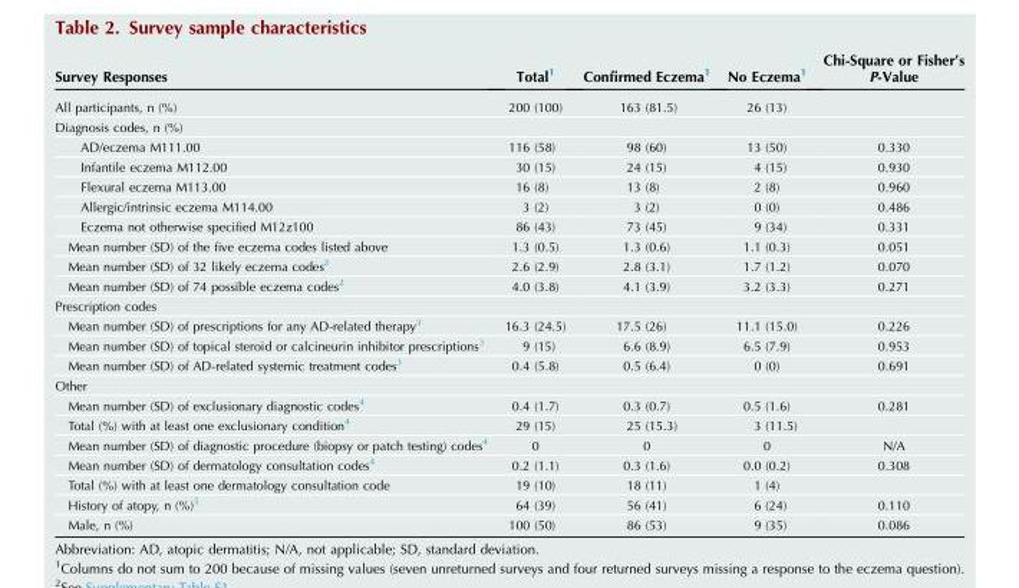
<table><thead><tr><td>Survey Responses</td><td>Total<sup>1</sup></td><td>Confirmed Eczema<sup>1</sup></td><td>No Eczema<sup>1</sup></td><td>Chi-Square or Fisher’s P-Value</td></tr></thead><tbody><tr><td>All participants, n (%)</td><td>200 (100)</td><td>163 (81.5)</td><td>26 (13)</td><td></td></tr><tr><td colspan="5">Diagnosis codes, n (%)</td></tr><tr><td>AD/eczema M111.00</td><td>116 (58)</td><td>98 (60)</td><td>13 (50)</td><td>0.330</td></tr><tr><td>Infantile eczema M112.00</td><td>30 (15)</td><td>24 (15)</td><td>4 (15)</td><td>0.930</td></tr><tr><td>Flexural eczema M113.00</td><td>16 (8)</td><td>13 (8)</td><td>2 (8)</td><td>0.960</td></tr><tr><td>Allergic/intrinsic eczema M114.00</td><td>3 (2)</td><td>3 (2)</td><td>0 (0)</td><td>0.486</td></tr><tr><td>Eczema not otherwise specified M12z100</td><td>86 (43)</td><td>73 (45)</td><td>9 (34)</td><td>0.331</td></tr><tr><td>Mean number (SD) of the five eczema codes listed above</td><td>1.3 (0.5)</td><td>1.3 (0.6)</td><td>1.1 (0.3)</td><td>0.051</td></tr><tr><td>Mean number (SD) of 32 likely eczema codes<sup>2</sup></td><td>2.6 (2.9)</td><td>2.8 (3.1)</td><td>1.7 (1.2)</td><td>0.070</td></tr><tr><td>Mean number (SD) of 74 possible eczema codes<sup>2</sup></td><td>4.0 (3.8)</td><td>4.1 (3.9)</td><td>3.2 (3.3)</td><td>0.271</td></tr><tr><td colspan="5">Prescription codes</td></tr><tr><td>Mean number (SD) of prescriptions for any AD-related therapy<sup>3</sup></td><td>16.3 (24.5)</td><td>17.5 (26)</td><td>11.1 (15.0)</td><td>0.226</td></tr><tr><td>Mean number (SD) of topical steroid or calcineurin inhibitor prescriptions<sup>3</sup></td><td>9 (15)</td><td>6.6 (8.9)</td><td>6.5 (7.9)</td><td>0.953</td></tr><tr><td>Mean number (SD) of AD-related systemic treatment codes<sup>3</sup></td><td>0.4 (5.8)</td><td>0.5 (6.4)</td><td>0 (0)</td><td>0.691</td></tr><tr><td colspan="5">Other</td></tr><tr><td>Mean number (SD) of exclusionary diagnostic codes<sup>4</sup></td><td>0.4 (1.7)</td><td>0.3 (0.7)</td><td>0.5 (1.6)</td><td>0.281</td></tr><tr><td>Total (%) with at least one exclusionary condition<sup>4</sup></td><td>29 (15)</td><td>25 (15.3)</td><td>3 (11.5)</td><td></td></tr><tr><td>Mean number (SD) of diagnostic procedure (biopsy or patch testing) codes<sup>4</sup></td><td>0</td><td>0</td><td>0</td><td>N/A</td></tr><tr><td>Mean number (SD) of dermatology consultation codes<sup>4</sup></td><td>0.2 (1.1)</td><td>0.3 (1.6)</td><td>0.0 (0.2)</td><td>0.308</td></tr><tr><td>Total (%) with at least one dermatology consultation code</td><td>19 (10)</td><td>18 (11)</td><td>1 (4)</td><td></td></tr><tr><td>History of atopy, n (%)<sup>5</sup></td><td>64 (39)</td><td>56 (41)</td><td>6 (24)</td><td>0.110</td></tr><tr><td>Male, n (%)</td><td>100 (50)</td><td>86 (53)</td><td>9 (35)</td><td>0.086</td></tr></tbody></table>